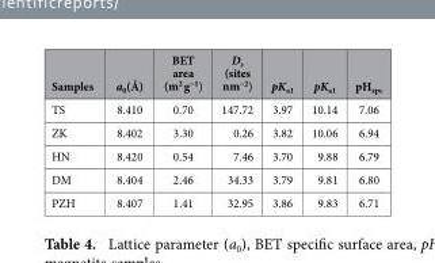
<table><thead><tr><td>Samples</td><td>a<sub>0</sub>(Å)</td><td>BET area (m<sup>2</sup> g<sup>−1</sup>)</td><td>D<sub>s</sub> (sites nm<sup>−2</sup>)</td><td>pK<sub>a1</sub></td><td>pK<sub>a1</sub></td><td>pH<sub>zpc</sub></td></tr></thead><tbody><tr><td>TS</td><td>8.410</td><td>0.70</td><td>147.72</td><td>3.97</td><td>10.14</td><td>7.06</td></tr><tr><td>ZK</td><td>8.402</td><td>3.30</td><td>0.26</td><td>3.82</td><td>10.06</td><td>6.94</td></tr><tr><td>HN</td><td>8.420</td><td>0.54</td><td>7.46</td><td>3.70</td><td>9.88</td><td>6.79</td></tr><tr><td>DM</td><td>8.404</td><td>2.46</td><td>34.33</td><td>3.79</td><td>9.81</td><td>6.80</td></tr><tr><td>PZH</td><td>8.407</td><td>1.41</td><td>32.95</td><td>3.86</td><td>9.83</td><td>6.71</td></tr></tbody></table>